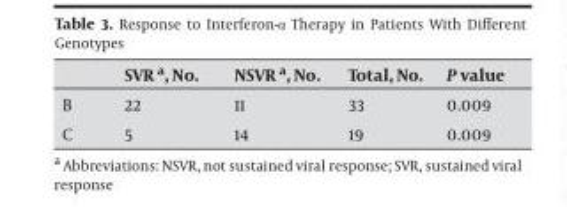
<table><thead><tr><td></td><td>SVR a, No.</td><td>NSVR a, No.</td><td>Total, No.</td><td>P value</td></tr></thead><tbody><tr><td>B</td><td>22</td><td>11</td><td>33</td><td>0.009</td></tr><tr><td>C</td><td>5</td><td>14</td><td>19</td><td>0.009</td></tr></tbody></table>